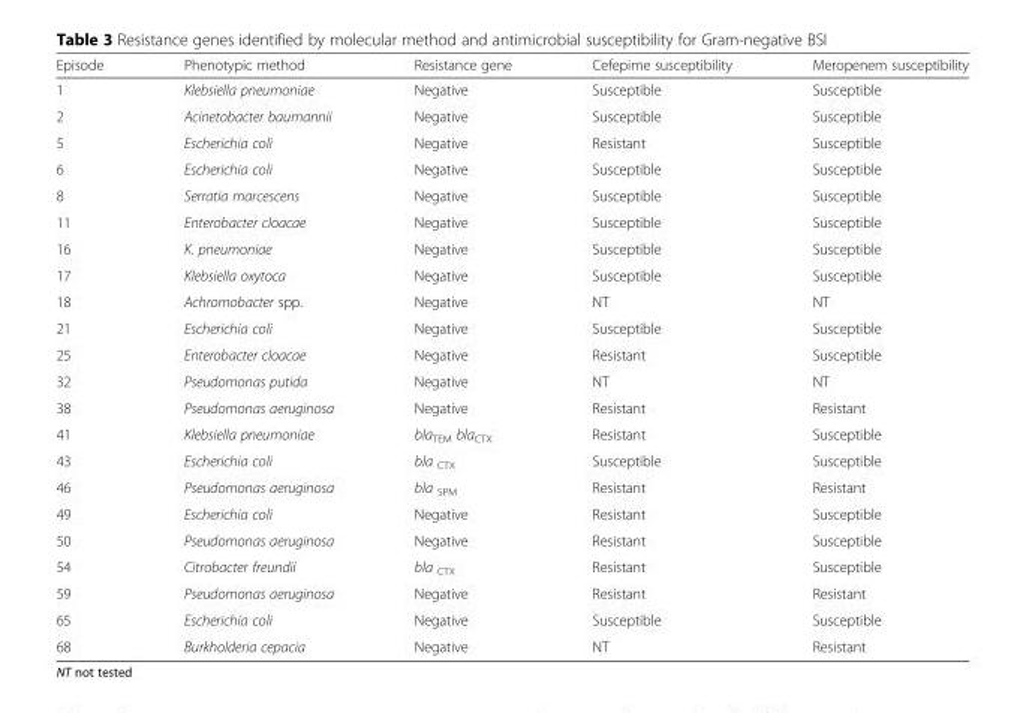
<table><thead><tr><td>Episode</td><td>Phenotypic method</td><td>Resistance gene</td><td>Cefepime susceptibility</td><td>Meropenem susceptibility</td></tr></thead><tbody><tr><td>1</td><td>Klebsiella pneumoniae</td><td>Negative</td><td>Susceptible</td><td>Susceptible</td></tr><tr><td>2</td><td>Acinetobacter baumannii</td><td>Negative</td><td>Susceptible</td><td>Susceptible</td></tr><tr><td>5</td><td>Escherichia coli</td><td>Negative</td><td>Resistant</td><td>Susceptible</td></tr><tr><td>6</td><td>Escherichia coli</td><td>Negative</td><td>Susceptible</td><td>Susceptible</td></tr><tr><td>8</td><td>Serratia marcescens</td><td>Negative</td><td>Susceptible</td><td>Susceptible</td></tr><tr><td>11</td><td>Enterobacter cloacae</td><td>Negative</td><td>Susceptible</td><td>Susceptible</td></tr><tr><td>16</td><td>K. pneumoniae</td><td>Negative</td><td>Susceptible</td><td>Susceptible</td></tr><tr><td>17</td><td>Klebsiella oxytoca</td><td>Negative</td><td>Susceptible</td><td>Susceptible</td></tr><tr><td>18</td><td>Achromobacter spp.</td><td>Negative</td><td>NT</td><td>NT</td></tr><tr><td>21</td><td>Escherichia coli</td><td>Negative</td><td>Susceptible</td><td>Susceptible</td></tr><tr><td>25</td><td>Enterobacter cloacae</td><td>Negative</td><td>Resistant</td><td>Susceptible</td></tr><tr><td>32</td><td>Pseudomonas putida</td><td>Negative</td><td>NT</td><td>NT</td></tr><tr><td>38</td><td>Pseudomonas aeruginosa</td><td>Negative</td><td>Resistant</td><td>Resistant</td></tr><tr><td>41</td><td>Klebsiella pneumoniae</td><td>bla<sub>TEM</sub> bla<sub>CTX</sub></td><td>Resistant</td><td>Susceptible</td></tr><tr><td>43</td><td>Escherichia coli</td><td>bla <sub>CTX</sub></td><td>Susceptible</td><td>Susceptible</td></tr><tr><td>46</td><td>Pseudomonas aeruginosa</td><td>bla <sub>SPM</sub></td><td>Resistant</td><td>Resistant</td></tr><tr><td>49</td><td>Escherichia coli</td><td>Negative</td><td>Resistant</td><td>Susceptible</td></tr><tr><td>50</td><td>Pseudomonas aeruginosa</td><td>Negative</td><td>Resistant</td><td>Susceptible</td></tr><tr><td>54</td><td>Citrobacter freundii</td><td>bla <sub>CTX</sub></td><td>Resistant</td><td>Susceptible</td></tr><tr><td>59</td><td>Pseudomonas aeruginosa</td><td>Negative</td><td>Resistant</td><td>Resistant</td></tr><tr><td>65</td><td>Escherichia coli</td><td>Negative</td><td>Susceptible</td><td>Susceptible</td></tr><tr><td>68</td><td>Burkholderia cepacia</td><td>Negative</td><td>NT</td><td>Resistant</td></tr></tbody></table>